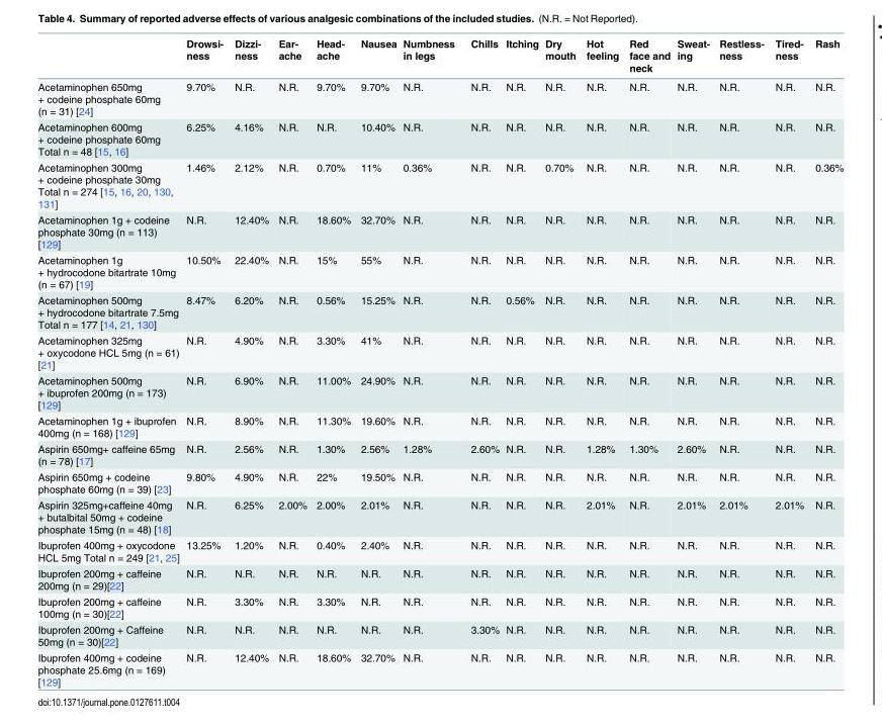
<table><thead><tr><td></td><td>Drowsi- ness</td><td>Dizzi- ness</td><td>Ear- ache</td><td>Head- ache</td><td>Nausea</td><td>Numbness in legs</td><td>Chills</td><td>Itching</td><td>Dry mouth</td><td>Hot feeling</td><td>Red face and neck</td><td>Sweat- ing</td><td>Restless- ness</td><td>Tired- ness</td><td>Rash</td></tr></thead><tbody><tr><td>Acetaminophen 650mg + codeine phosphate 60mg (n = 31) [24]</td><td>9.70%</td><td>N.R.</td><td>N.R.</td><td>9.70%</td><td>9.70%</td><td>N.R.</td><td>N.R.</td><td>N.R.</td><td>N.R.</td><td>N.R.</td><td>N.R.</td><td>N.R.</td><td>N.R.</td><td>N.R.</td><td>N.R.</td></tr><tr><td>Acetaminophen 600mg + codeine phosphate 60mg Total n = 48 [15, 16]</td><td>6.25%</td><td>4.16%</td><td>N.R.</td><td>N.R.</td><td>10.40%</td><td>N.R.</td><td>N.R.</td><td>N.R.</td><td>N.R.</td><td>N.R.</td><td>N.R.</td><td>N.R.</td><td>N.R.</td><td>N.R.</td><td>N.R.</td></tr><tr><td>Acetaminophen 300mg + codeine phosphate 30mg Total n = 274 [15, 16, 20, 130, 131]</td><td>1.46%</td><td>2.12%</td><td>N.R.</td><td>0.70%</td><td>11%</td><td>0.36%</td><td>N.R.</td><td>N.R.</td><td>0.70%</td><td>N.R.</td><td>N.R.</td><td>N.R.</td><td>N.R.</td><td>N.R.</td><td>0.36%</td></tr><tr><td>Acetaminophen 1g + codeine phosphate 30mg (n = 113) [129]</td><td>N.R.</td><td>12.40%</td><td>N.R.</td><td>18.60%</td><td>32.70%</td><td>N.R.</td><td>N.R.</td><td>N.R.</td><td>N.R.</td><td>N.R.</td><td>N.R.</td><td>N.R.</td><td>N.R.</td><td>N.R.</td><td>N.R.</td></tr><tr><td>Acetaminophen 1g + hydrocodone bitartrate 10mg (n = 67) [19]</td><td>10.50%</td><td>22.40%</td><td>N.R.</td><td>15%</td><td>55%</td><td>N.R.</td><td>N.R.</td><td>N.R.</td><td>N.R.</td><td>N.R.</td><td>N.R.</td><td>N.R.</td><td>N.R.</td><td>N.R.</td><td>N.R.</td></tr><tr><td>Acetaminophen 500mg + hydrocodone bitartrate 7.5mg Total n = 177 [14, 21, 130]</td><td>8.47%</td><td>6.20%</td><td>N.R.</td><td>0.56%</td><td>15.25%</td><td>N.R.</td><td>N.R.</td><td>0.56%</td><td>N.R.</td><td>N.R.</td><td>N.R.</td><td>N.R.</td><td>N.R.</td><td>N.R.</td><td>N.R.</td></tr><tr><td>Acetaminophen 325mg + oxycodone HCL 5mg (n = 61) [21]</td><td>N.R.</td><td>4.90%</td><td>N.R.</td><td>3.30%</td><td>41%</td><td>N.R.</td><td>N.R.</td><td>N.R.</td><td>N.R.</td><td>N.R.</td><td>N.R.</td><td>N.R.</td><td>N.R.</td><td>N.R.</td><td>N.R.</td></tr><tr><td>Acetaminophen 500mg + ibuprofen 200mg (n = 173) [129]</td><td>N.R.</td><td>6.90%</td><td>N.R.</td><td>11.00%</td><td>24.90%</td><td>N.R.</td><td>N.R.</td><td>N.R.</td><td>N.R.</td><td>N.R.</td><td>N.R.</td><td>N.R.</td><td>N.R.</td><td>N.R.</td><td>N.R.</td></tr><tr><td>Acetaminophen 1g + ibuprofen 400mg (n = 168) [129]</td><td>N.R.</td><td>8.90%</td><td>N.R.</td><td>11.30%</td><td>19.60%</td><td>N.R.</td><td>N.R.</td><td>N.R.</td><td>N.R.</td><td>N.R.</td><td>N.R.</td><td>N.R.</td><td>N.R.</td><td>N.R.</td><td>N.R.</td></tr><tr><td>Aspirin 650mg+ caffeine 65mg (n = 78) [17]</td><td>N.R.</td><td>2.56%</td><td>N.R.</td><td>1.30%</td><td>2.56%</td><td>1.28%</td><td>2.60%</td><td>N.R.</td><td>N.R.</td><td>1.28%</td><td>1.30%</td><td>2.60%</td><td>N.R.</td><td>N.R.</td><td>N.R.</td></tr><tr><td>Aspirin 650mg + codeine phosphate 60mg (n = 39) [23]</td><td>9.80%</td><td>4.90%</td><td>N.R.</td><td>22%</td><td>19.50%</td><td>N.R.</td><td>N.R.</td><td>N.R.</td><td>N.R.</td><td>N.R.</td><td>N.R.</td><td>N.R.</td><td>N.R.</td><td>N.R.</td><td>N.R.</td></tr><tr><td>Aspirin 325mg+caffeine 40mg + butalbital 50mg + codeine phosphate 15mg (n = 48) [18]</td><td>N.R.</td><td>6.25%</td><td>2.00%</td><td>2.00%</td><td>2.01%</td><td>N.R.</td><td>N.R.</td><td>N.R.</td><td>N.R.</td><td>2.01%</td><td>N.R.</td><td>2.01%</td><td>2.01%</td><td>2.01%</td><td>N.R.</td></tr><tr><td>Ibuprofen 400mg + oxycodone HCL 5mg Total n = 249 [21, 25]</td><td>13.25%</td><td>1.20%</td><td>N.R.</td><td>0.40%</td><td>2.40%</td><td>N.R.</td><td>N.R.</td><td>N.R.</td><td>N.R.</td><td>N.R.</td><td>N.R.</td><td>N.R.</td><td>N.R.</td><td>N.R.</td><td>N.R.</td></tr><tr><td>Ibuprofen 200mg + caffeine 200mg (n = 29)[22]</td><td>N.R.</td><td>N.R.</td><td>N.R.</td><td>N.R.</td><td>N.R.</td><td>N.R.</td><td>N.R.</td><td>N.R.</td><td>N.R.</td><td>N.R.</td><td>N.R.</td><td>N.R.</td><td>N.R.</td><td>N.R.</td><td>N.R.</td></tr><tr><td>Ibuprofen 200mg + caffeine 100mg (n = 30)[22]</td><td>N.R.</td><td>3.30%</td><td>N.R.</td><td>3.30%</td><td>N.R.</td><td>N.R.</td><td>N.R.</td><td>N.R.</td><td>N.R.</td><td>N.R.</td><td>N.R.</td><td>N.R.</td><td>N.R.</td><td>N.R.</td><td>N.R.</td></tr><tr><td>Ibuprofen 200mg + Caffeine 50mg (n = 30)[22]</td><td>N.R.</td><td>N.R.</td><td>N.R.</td><td>N.R.</td><td>N.R.</td><td>N.R.</td><td>3.30%</td><td>N.R.</td><td>N.R.</td><td>N.R.</td><td>N.R.</td><td>N.R.</td><td>N.R.</td><td>N.R.</td><td>N.R.</td></tr><tr><td>Ibuprofen 400mg + codeine phosphate 25.6mg (n = 169) [129]</td><td>N.R.</td><td>12.40%</td><td>N.R.</td><td>18.60%</td><td>32.70%</td><td>N.R.</td><td>N.R.</td><td>N.R.</td><td>N.R.</td><td>N.R.</td><td>N.R.</td><td>N.R.</td><td>N.R.</td><td>N.R.</td><td>N.R.</td></tr></tbody></table>